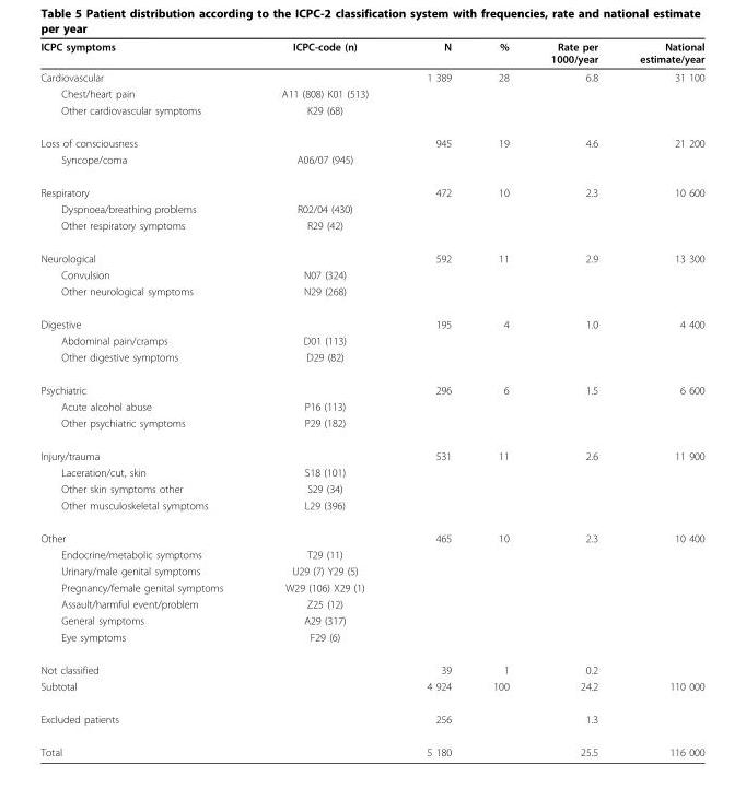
<table><thead><tr><td>ICPC symptoms</td><td>ICPC-code (n)</td><td>N</td><td>%</td><td>Rate per 1000/year</td><td>National estimate/year</td></tr></thead><tbody><tr><td>Cardiovascular</td><td></td><td>1 389</td><td>28</td><td>6.8</td><td>31 100</td></tr><tr><td>Chest/heart pain</td><td>A11 (808) K01 (513)</td><td></td><td></td><td></td><td></td></tr><tr><td>Other cardiovascular symptoms</td><td>K29 (68)</td><td></td><td></td><td></td><td></td></tr><tr><td>Loss of consciousness</td><td></td><td>945</td><td>19</td><td>4.6</td><td>21 200</td></tr><tr><td>Syncope/coma</td><td>A06/07 (945)</td><td></td><td></td><td></td><td></td></tr><tr><td>Respiratory</td><td></td><td>472</td><td>10</td><td>2.3</td><td>10 600</td></tr><tr><td>Dyspnoea/breathing problems</td><td>R02/04 (430)</td><td></td><td></td><td></td><td></td></tr><tr><td>Other respiratory symptoms</td><td>R29 (42)</td><td></td><td></td><td></td><td></td></tr><tr><td>Neurological</td><td></td><td>592</td><td>11</td><td>2.9</td><td>13 300</td></tr><tr><td>Convulsion</td><td>N07 (324)</td><td></td><td></td><td></td><td></td></tr><tr><td>Other neurological symptoms</td><td>N29 (268)</td><td></td><td></td><td></td><td></td></tr><tr><td>Digestive</td><td></td><td>195</td><td>4</td><td>1.0</td><td>4 400</td></tr><tr><td>Abdominal pain/cramps</td><td>D01 (113)</td><td></td><td></td><td></td><td></td></tr><tr><td>Other digestive symptoms</td><td>D29 (82)</td><td></td><td></td><td></td><td></td></tr><tr><td>Psychiatric</td><td></td><td>296</td><td>6</td><td>1.5</td><td>6 600</td></tr><tr><td>Acute alcohol abuse</td><td>P16 (113)</td><td></td><td></td><td></td><td></td></tr><tr><td>Other psychiatric symptoms</td><td>P29 (182)</td><td></td><td></td><td></td><td></td></tr><tr><td>Injury/trauma</td><td></td><td>531</td><td>11</td><td>2.6</td><td>11 900</td></tr><tr><td>Laceration/cut, skin</td><td>S18 (101)</td><td></td><td></td><td></td><td></td></tr><tr><td>Other skin symptoms other</td><td>S29 (34)</td><td></td><td></td><td></td><td></td></tr><tr><td>Other musculoskeletal symptoms</td><td>L29 (396)</td><td></td><td></td><td></td><td></td></tr><tr><td>Other</td><td></td><td>465</td><td>10</td><td>2.3</td><td>10 400</td></tr><tr><td>Endocrine/metabolic symptoms</td><td>T29 (11)</td><td></td><td></td><td></td><td></td></tr><tr><td>Urinary/male genital symptoms</td><td>U29 (7) Y29 (5)</td><td></td><td></td><td></td><td></td></tr><tr><td>Pregnancy/female genital symptoms</td><td>W29 (106) X29 (1)</td><td></td><td></td><td></td><td></td></tr><tr><td>Assault/harmful event/problem</td><td>Z25 (12)</td><td></td><td></td><td></td><td></td></tr><tr><td>General symptoms</td><td>A29 (317)</td><td></td><td></td><td></td><td></td></tr><tr><td>Eye symptoms</td><td>F29 (6)</td><td></td><td></td><td></td><td></td></tr><tr><td>Not classified</td><td></td><td>39</td><td>1</td><td>0.2</td><td></td></tr><tr><td>Subtotal</td><td></td><td>4 924</td><td>100</td><td>24.2</td><td>110 000</td></tr><tr><td>Excluded patients</td><td></td><td>256</td><td></td><td>1.3</td><td></td></tr><tr><td>Total</td><td></td><td>5 180</td><td></td><td>25.5</td><td>116 000</td></tr></tbody></table>